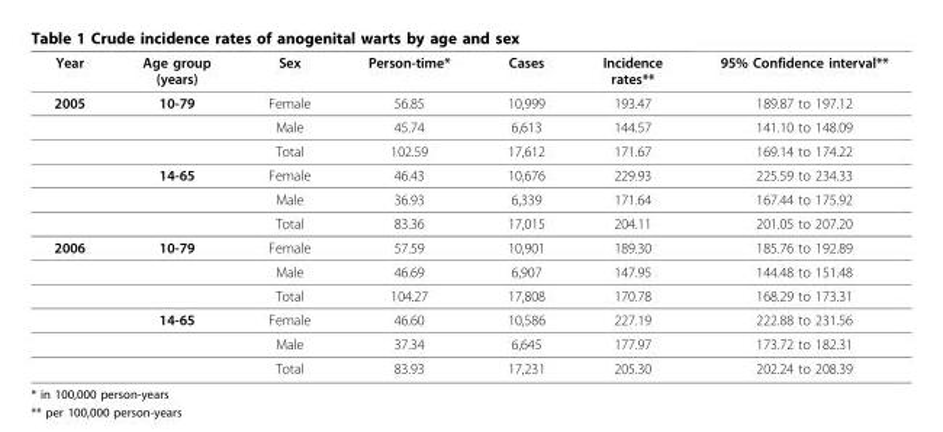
<table><thead><tr><td>Year</td><td>Age group (years)</td><td>Sex</td><td>Person-time*</td><td>Cases</td><td>Incidence rates**</td><td>95% Confidence interval**</td></tr></thead><tbody><tr><td rowspan="6">2005</td><td>10-79</td><td>Female</td><td>56.85</td><td>10,999</td><td>193.47</td><td>189.87 to 197.12</td></tr><tr><td></td><td>Male</td><td>45.74</td><td>6,613</td><td>144.57</td><td>141.10 to 148.09</td></tr><tr><td></td><td>Total</td><td>102.59</td><td>17,612</td><td>171.67</td><td>169.14 to 174.22</td></tr><tr><td>14-65</td><td>Female</td><td>46.43</td><td>10,676</td><td>229.93</td><td>225.59 to 234.33</td></tr><tr><td></td><td>Male</td><td>36.93</td><td>6,339</td><td>171.64</td><td>167.44 to 175.92</td></tr><tr><td></td><td>Total</td><td>83.36</td><td>17,015</td><td>204.11</td><td>201.05 to 207.20</td></tr><tr><td rowspan="6">2006</td><td>10-79</td><td>Female</td><td>57.59</td><td>10,901</td><td>189.30</td><td>185.76 to 192.89</td></tr><tr><td></td><td>Male</td><td>46.69</td><td>6,907</td><td>147.95</td><td>144.48 to 151.48</td></tr><tr><td></td><td>Total</td><td>104.27</td><td>17,808</td><td>170.78</td><td>168.29 to 173.31</td></tr><tr><td>14-65</td><td>Female</td><td>46.60</td><td>10,586</td><td>227.19</td><td>222.88 to 231.56</td></tr><tr><td></td><td>Male</td><td>37.34</td><td>6,645</td><td>177.97</td><td>173.72 to 182.31</td></tr><tr><td></td><td>Total</td><td>83.93</td><td>17,231</td><td>205.30</td><td>202.24 to 208.39</td></tr></tbody></table>